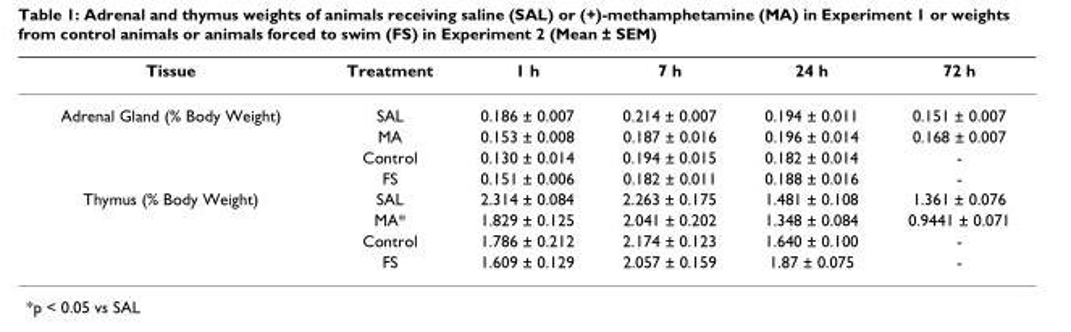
<table><thead><tr><td>Tissue</td><td>Treatment</td><td>1 h</td><td>7 h</td><td>24 h</td><td>72 h</td></tr></thead><tbody><tr><td rowspan="4">Adrenal Gland (% Body Weight)</td><td>SAL</td><td>0.186 ± 0.007</td><td>0.214 ± 0.007</td><td>0.194 ± 0.011</td><td>0.151 ± 0.007</td></tr><tr><td>MA</td><td>0.153 ± 0.008</td><td>0.187 ± 0.016</td><td>0.196 ± 0.014</td><td>0.168 ± 0.007</td></tr><tr><td>Control</td><td>0.130 ± 0.014</td><td>0.194 ± 0.015</td><td>0.182 ± 0.014</td><td>-</td></tr><tr><td>FS</td><td>0.151 ± 0.006</td><td>0.182 ± 0.011</td><td>0.188 ± 0.016</td><td>-</td></tr><tr><td rowspan="4">Thymus (% Body Weight)</td><td>SAL</td><td>2.314 ± 0.084</td><td>2.263 ± 0.175</td><td>1.481 ± 0.108</td><td>1.361 ± 0.076</td></tr><tr><td>MA*</td><td>1.829 ± 0.125</td><td>2.041 ± 0.202</td><td>1.348 ± 0.084</td><td>0.9441 ± 0.071</td></tr><tr><td>Control</td><td>1.786 ± 0.212</td><td>2.174 ± 0.123</td><td>1.640 ± 0.100</td><td>-</td></tr><tr><td>FS</td><td>1.609 ± 0.129</td><td>2.057 ± 0.159</td><td>1.87 ± 0.075</td><td>-</td></tr></tbody></table>